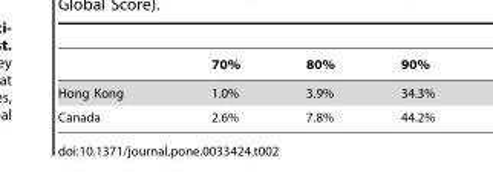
<table><thead><tr><td></td><td>70%</td><td>80%</td><td>90%</td></tr></thead><tbody><tr><td>Hong Kong</td><td>1.0%</td><td>3.9%</td><td>34.3%</td></tr><tr><td>Canada</td><td>2.6%</td><td>7.8%</td><td>44.2%</td></tr></tbody></table>